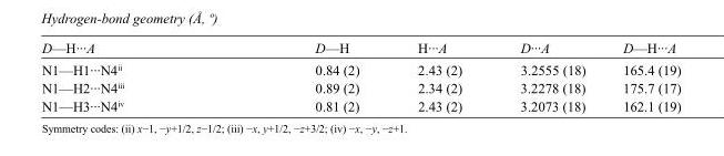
<table><tbody><tr><td>D—H···A</td><td>D—H</td><td>H···A</td><td>D···A</td><td>D—H···A</td></tr><tr><td>N1—H1···N4<sup>ii</sup></td><td>0.84 (2)</td><td>2.43 (2)</td><td>3.2555 (18)</td><td>165.4 (19)</td></tr><tr><td>N1—H2···N4<sup>iii</sup></td><td>0.89 (2)</td><td>2.34 (2)</td><td>3.2278 (18)</td><td>175.7 (17)</td></tr><tr><td>N1—H3···N4<sup>iv</sup></td><td>0.81 (2)</td><td>2.43 (2)</td><td>3.2073 (18)</td><td>162.1 (19)</td></tr></tbody></table>